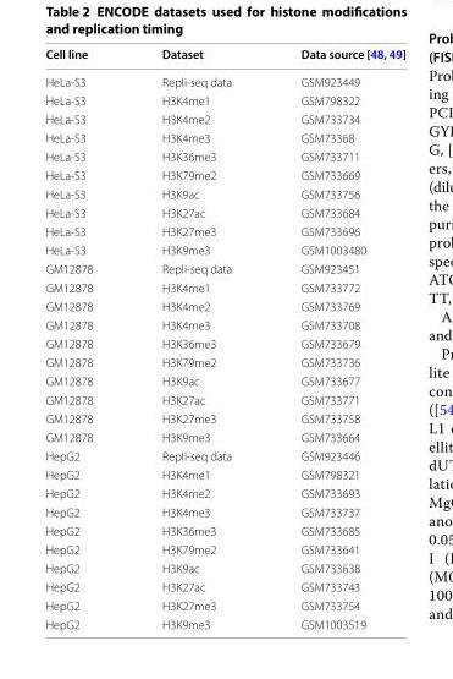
<table><thead><tr><td>Cell line</td><td>Dataset</td><td>Data source [48, 49]</td></tr></thead><tbody><tr><td>HeLa-S3</td><td>Repli-seq data</td><td>GSM923449</td></tr><tr><td>HeLa-S3</td><td>H3K4me1</td><td>GSM798322</td></tr><tr><td>HeLa-S3</td><td>H3K4me2</td><td>GSM733734</td></tr><tr><td>HeLa-S3</td><td>H3K4me3</td><td>GSM73368</td></tr><tr><td>HeLa-S3</td><td>H3K36me3</td><td>GSM733711</td></tr><tr><td>HeLa-S3</td><td>H3K79me2</td><td>GSM733669</td></tr><tr><td>HeLa-S3</td><td>H3K9ac</td><td>GSM733756</td></tr><tr><td>HeLa-S3</td><td>H3K27ac</td><td>GSM733684</td></tr><tr><td>HeLa-S3</td><td>H3K27me3</td><td>GSM733696</td></tr><tr><td>HeLa-S3</td><td>H3K9me3</td><td>GSM1003480</td></tr><tr><td>GM12878</td><td>Repli-seq data</td><td>GSM923451</td></tr><tr><td>GM12878</td><td>H3K4me1</td><td>GSM733772</td></tr><tr><td>GM12878</td><td>H3K4me2</td><td>GSM733769</td></tr><tr><td>GM12878</td><td>H3K4me3</td><td>GSM733708</td></tr><tr><td>GM12878</td><td>H3K36me3</td><td>GSM733679</td></tr><tr><td>GM12878</td><td>H3K79me2</td><td>GSM733736</td></tr><tr><td>GM12878</td><td>H3K9ac</td><td>GSM733677</td></tr><tr><td>GM12878</td><td>H3K27ac</td><td>GSM733771</td></tr><tr><td>GM12878</td><td>H3K27me3</td><td>GSM733758</td></tr><tr><td>GM12878</td><td>H3K9me3</td><td>GSM733664</td></tr><tr><td>HepG2</td><td>Repli-seq data</td><td>GSM923446</td></tr><tr><td>HepG2</td><td>H3K4me1</td><td>GSM798321</td></tr><tr><td>HepG2</td><td>H3K4me2</td><td>GSM733693</td></tr><tr><td>HepG2</td><td>H3K4me3</td><td>GSM733737</td></tr><tr><td>HepG2</td><td>H3K36me3</td><td>GSM733685</td></tr><tr><td>HepG2</td><td>H3K79me2</td><td>GSM733641</td></tr><tr><td>HepG2</td><td>H3K9ac</td><td>GSM733638</td></tr><tr><td>HepG2</td><td>H3K27ac</td><td>GSM733743</td></tr><tr><td>HepG2</td><td>H3K27me3</td><td>GSM733754</td></tr><tr><td>HepG2</td><td>H3K9me3</td><td>GSM1003519</td></tr></tbody></table>